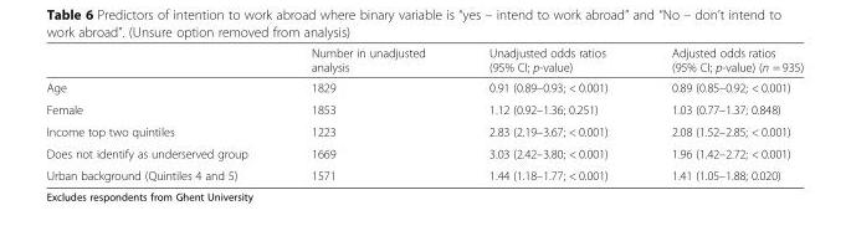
<table><thead><tr><td></td><td>Number in unadjusted analysis</td><td>Unadjusted odds ratios (95% CI; p-value)</td><td>Adjusted odds ratios (95% CI; p-value) (n = 935)</td></tr></thead><tbody><tr><td>Age</td><td>1829</td><td>0.91 (0.89–0.93; &lt; 0.001)</td><td>0.89 (0.85–0.92; &lt; 0.001)</td></tr><tr><td>Female</td><td>1853</td><td>1.12 (0.92–1.36; 0.251)</td><td>1.03 (0.77–1.37; 0.848)</td></tr><tr><td>Income top two quintiles</td><td>1223</td><td>2.83 (2.19–3.67; &lt; 0.001)</td><td>2.08 (1.52–2.85; &lt; 0.001)</td></tr><tr><td>Does not identify as underserved group</td><td>1669</td><td>3.03 (2.42–3.80; &lt; 0.001)</td><td>1.96 (1.42–2.72; &lt; 0.001)</td></tr><tr><td>Urban background (Quintiles 4 and 5)</td><td>1571</td><td>1.44 (1.18–1.77; &lt; 0.001)</td><td>1.41 (1.05–1.88; 0.020)</td></tr></tbody></table>